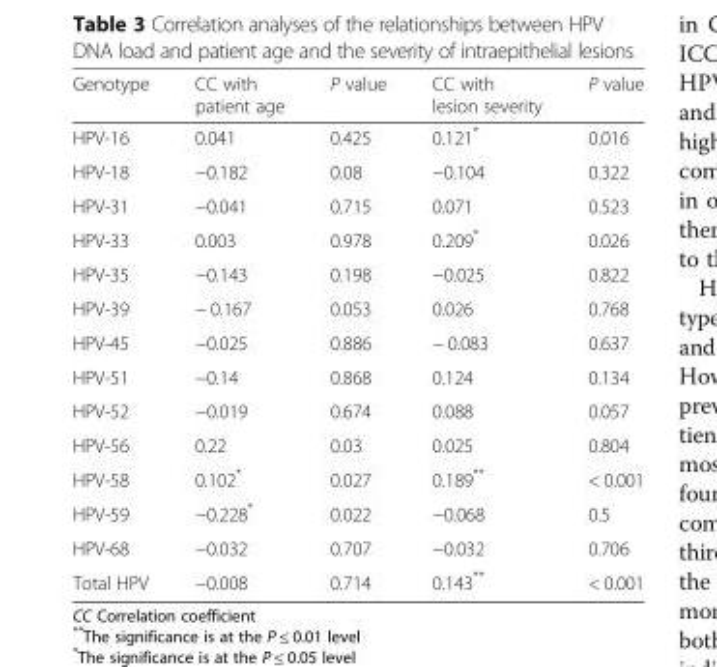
<table><thead><tr><td>Genotype</td><td>CC with patient age</td><td>P value</td><td>CC with lesion severity</td><td>P value</td></tr></thead><tbody><tr><td>HPV-16</td><td>0.041</td><td>0.425</td><td>0.121*</td><td>0.016</td></tr><tr><td>HPV-18</td><td>−0.182</td><td>0.08</td><td>−0.104</td><td>0.322</td></tr><tr><td>HPV-31</td><td>−0.041</td><td>0.715</td><td>0.071</td><td>0.523</td></tr><tr><td>HPV-33</td><td>0.003</td><td>0.978</td><td>0.209*</td><td>0.026</td></tr><tr><td>HPV-35</td><td>−0.143</td><td>0.198</td><td>−0.025</td><td>0.822</td></tr><tr><td>HPV-39</td><td>− 0.167</td><td>0.053</td><td>0.026</td><td>0.768</td></tr><tr><td>HPV-45</td><td>−0.025</td><td>0.886</td><td>− 0.083</td><td>0.637</td></tr><tr><td>HPV-51</td><td>−0.14</td><td>0.868</td><td>0.124</td><td>0.134</td></tr><tr><td>HPV-52</td><td>−0.019</td><td>0.674</td><td>0.088</td><td>0.057</td></tr><tr><td>HPV-56</td><td>0.22</td><td>0.03</td><td>0.025</td><td>0.804</td></tr><tr><td>HPV-58</td><td>0.102*</td><td>0.027</td><td>0.189**</td><td>&lt; 0.001</td></tr><tr><td>HPV-59</td><td>−0.228*</td><td>0.022</td><td>−0.068</td><td>0.5</td></tr><tr><td>HPV-68</td><td>−0.032</td><td>0.707</td><td>−0.032</td><td>0.706</td></tr><tr><td>Total HPV</td><td>−0.008</td><td>0.714</td><td>0.143**</td><td>&lt; 0.001</td></tr></tbody></table>